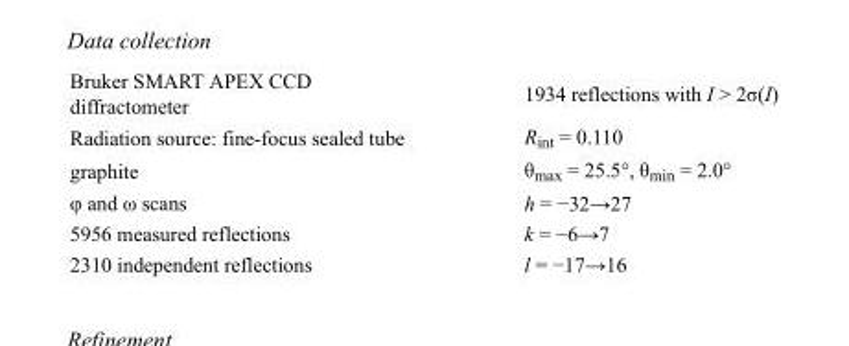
<table><tbody><tr><td>Bruker SMART APEX CCD diffractometer</td><td>1934 reflections with I &gt; 2σ(I)</td></tr><tr><td>Radiation source: fine-focus sealed tube</td><td>R<sub>int</sub> = 0.110</td></tr><tr><td>graphite</td><td>θ<sub>max</sub> = 25.5°, θ<sub>min</sub> = 2.0°</td></tr><tr><td>φ and ω scans</td><td>h = −32→27</td></tr><tr><td>5956 measured reflections</td><td>k = −6→7</td></tr><tr><td>2310 independent reflections</td><td>l = −17→16</td></tr></tbody></table>